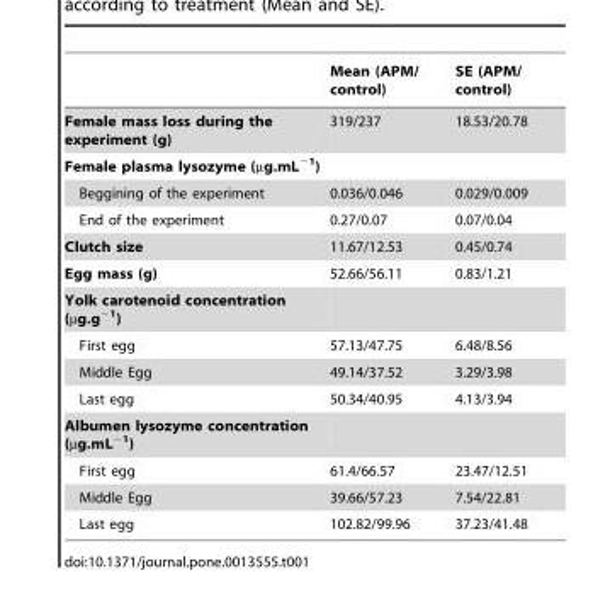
<table><thead><tr><td></td><td>Mean (APM/ control)</td><td>SE (APM/ control)</td></tr></thead><tbody><tr><td>Female mass loss during the experiment (g)</td><td>319/237</td><td>18.53/20.78</td></tr><tr><td colspan="3">Female plasma lysozyme (µg.mL<sup>−1</sup>)</td></tr><tr><td>Beggining of the experiment</td><td>0.036/0.046</td><td>0.029/0.009</td></tr><tr><td>End of the experiment</td><td>0.27/0.07</td><td>0.07/0.04</td></tr><tr><td>Clutch size</td><td>11.67/12.53</td><td>0.45/0.74</td></tr><tr><td>Egg mass (g)</td><td>52.66/56.11</td><td>0.83/1.21</td></tr><tr><td colspan="3">Yolk carotenoid concentration (µg.g<sup>−1</sup>)</td></tr><tr><td>First egg</td><td>57.13/47.75</td><td>6.48/8.56</td></tr><tr><td>Middle Egg</td><td>49.14/37.52</td><td>3.29/3.98</td></tr><tr><td>Last egg</td><td>50.34/40.95</td><td>4.13/3.94</td></tr><tr><td colspan="3">Albumen lysozyme concentration (µg.mL<sup>−1</sup>)</td></tr><tr><td>First egg</td><td>61.4/66.57</td><td>23.47/12.51</td></tr><tr><td>Middle Egg</td><td>39.66/57.23</td><td>7.54/22.81</td></tr><tr><td>Last egg</td><td>102.82/99.96</td><td>37.23/41.48</td></tr></tbody></table>